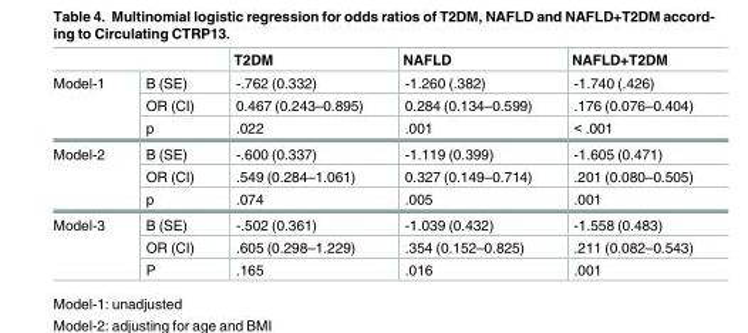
<table><thead><tr><td></td><td></td><td>T2DM</td><td>NAFLD</td><td>NAFLD+T2DM</td></tr></thead><tbody><tr><td rowspan="3">Model-1</td><td>B (SE)</td><td>-.762 (0.332)</td><td>-1.260 (.382)</td><td>-1.740 (.426)</td></tr><tr><td>OR (CI)</td><td>0.467 (0.243–0.895)</td><td>0.284 (0.134–0.599)</td><td>.176 (0.076–0.404)</td></tr><tr><td>p</td><td>.022</td><td>.001</td><td>&lt; .001</td></tr><tr><td rowspan="3">Model-2</td><td>B (SE)</td><td>-.600 (0.337)</td><td>-1.119 (0.399)</td><td>-1.605 (0.471)</td></tr><tr><td>OR (CI)</td><td>.549 (0.284–1.061)</td><td>0.327 (0.149–0.714)</td><td>.201 (0.080–0.505)</td></tr><tr><td>p</td><td>.074</td><td>.005</td><td>.001</td></tr><tr><td rowspan="3">Model-3</td><td>B (SE)</td><td>-.502 (0.361)</td><td>-1.039 (0.432)</td><td>-1.558 (0.483)</td></tr><tr><td>OR (CI)</td><td>.605 (0.298–1.229)</td><td>.354 (0.152–0.825)</td><td>.211 (0.082–0.543)</td></tr><tr><td>P</td><td>.165</td><td>.016</td><td>.001</td></tr></tbody></table>